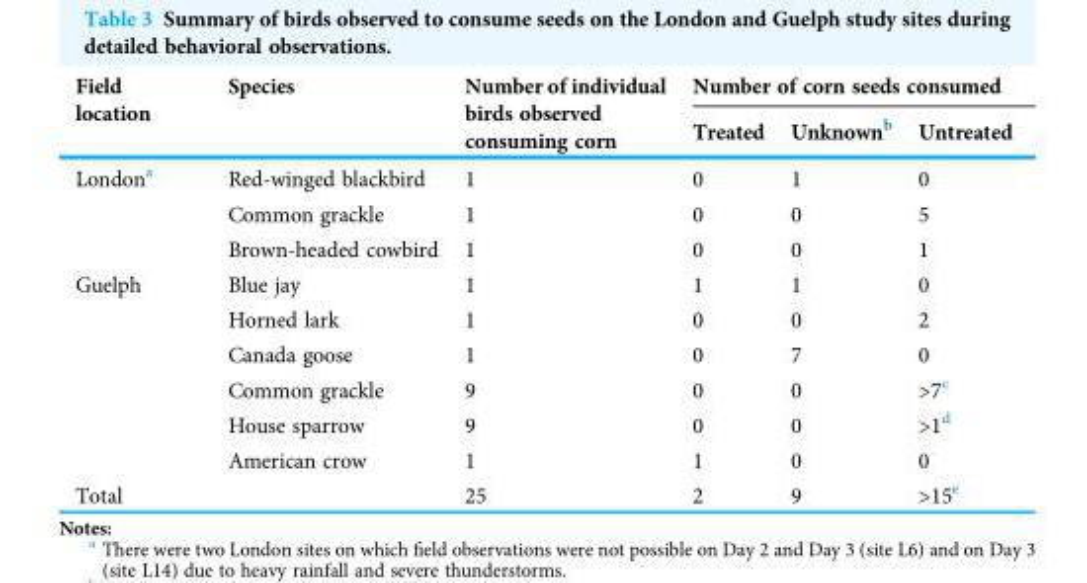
<table><thead><tr><td rowspan="2">Field location</td><td rowspan="2">Species</td><td rowspan="2">Number of individual birds observed consuming corn</td><td colspan="3">Number of corn seeds consumed</td></tr><tr><td>Treated</td><td>Unknown<sup>b</sup></td><td>Untreated</td></tr></thead><tbody><tr><td rowspan="3">London<sup>a</sup></td><td>Red-winged blackbird</td><td>1</td><td>0</td><td>1</td><td>0</td></tr><tr><td>Common grackle</td><td>1</td><td>0</td><td>0</td><td>5</td></tr><tr><td>Brown-headed cowbird</td><td>1</td><td>0</td><td>0</td><td>1</td></tr><tr><td rowspan="6">Guelph</td><td>Blue jay</td><td>1</td><td>1</td><td>1</td><td>0</td></tr><tr><td>Horned lark</td><td>1</td><td>0</td><td>0</td><td>2</td></tr><tr><td>Canada goose</td><td>1</td><td>0</td><td>7</td><td>0</td></tr><tr><td>Common grackle</td><td>9</td><td>0</td><td>0</td><td>&gt;7<sup>c</sup></td></tr><tr><td>House sparrow</td><td>9</td><td>0</td><td>0</td><td>&gt;1<sup>d</sup></td></tr><tr><td>American crow</td><td>1</td><td>1</td><td>0</td><td>0</td></tr><tr><td>Total</td><td></td><td>25</td><td>2</td><td>9</td><td>&gt;15<sup>e</sup></td></tr></tbody></table>